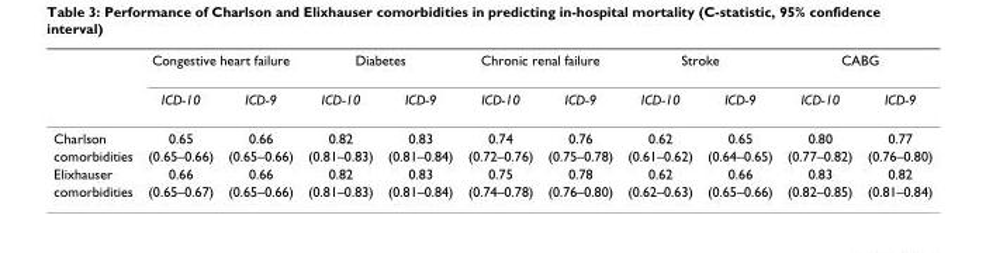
<table><thead><tr><td rowspan="2"></td><td colspan="2">Congestive heart failure</td><td colspan="2">Diabetes</td><td colspan="2">Chronic renal failure</td><td colspan="2">Stroke</td><td colspan="2">CABG</td></tr><tr><td>ICD-10</td><td>ICD-9</td><td>ICD-10</td><td>ICD-9</td><td>ICD-10</td><td>ICD-9</td><td>ICD-10</td><td>ICD-9</td><td>ICD-10</td><td>ICD-9</td></tr></thead><tbody><tr><td>Charlson</td><td>0.65</td><td>0.66</td><td>0.82</td><td>0.83</td><td>0.74</td><td>0.76</td><td>0.62</td><td>0.65</td><td>0.80</td><td>0.77</td></tr><tr><td>comorbidities</td><td>(0.65–0.66)</td><td>(0.65–0.66)</td><td>(0.81–0.83)</td><td>(0.81–0.84)</td><td>(0.72–0.76)</td><td>(0.75–0.78)</td><td>(0.61–0.62)</td><td>(0.64–0.65)</td><td>(0.77–0.82)</td><td>(0.76–0.80)</td></tr><tr><td>Elixhauser</td><td>0.66</td><td>0.66</td><td>0.82</td><td>0.83</td><td>0.75</td><td>0.78</td><td>0.62</td><td>0.66</td><td>0.83</td><td>0.82</td></tr><tr><td>comorbidities</td><td>(0.65–0.67)</td><td>(0.65–0.66)</td><td>(0.81–0.83)</td><td>(0.81–0.84)</td><td>(0.74–0.78)</td><td>(0.76–0.80)</td><td>(0.62–0.63)</td><td>(0.65–0.66)</td><td>(0.82–0.85)</td><td>(0.81–0.84)</td></tr></tbody></table>